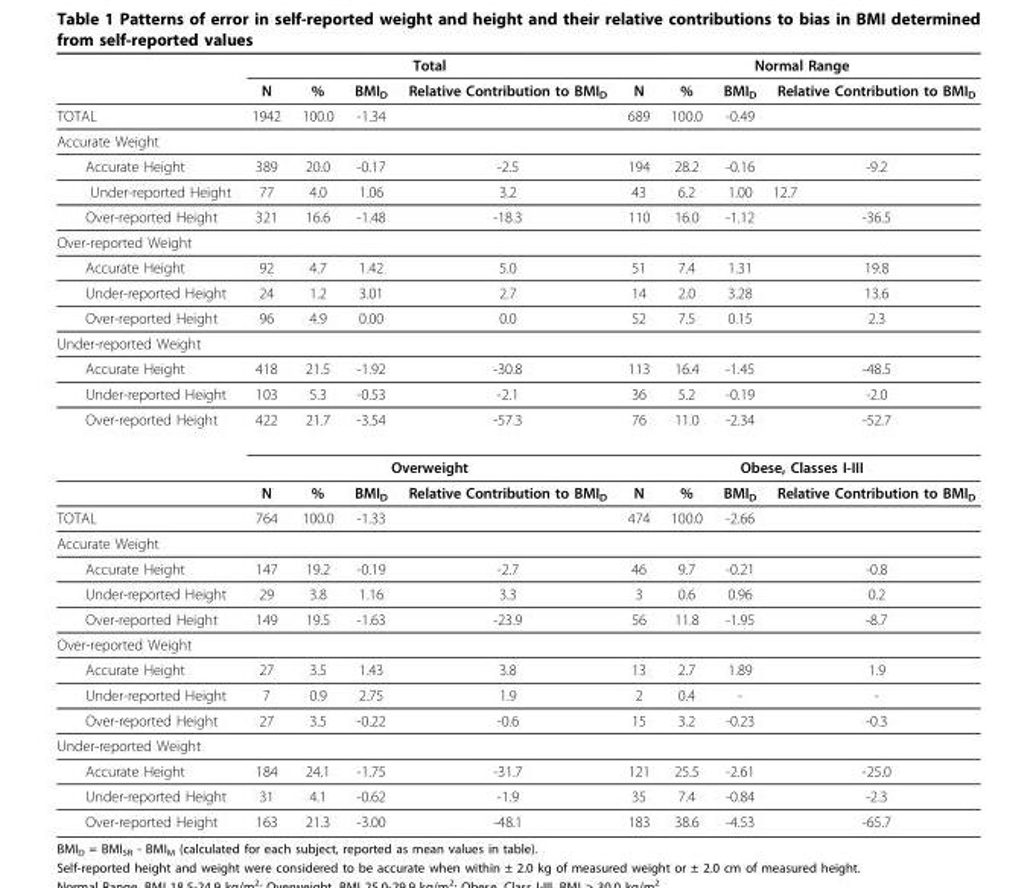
<table><thead><tr><td rowspan="2"></td><td colspan="4">Total</td><td colspan="4">Normal Range</td></tr><tr><td>N</td><td>%</td><td>BMI<sub>D</sub></td><td>Relative Contribution to BMI<sub>D</sub></td><td>N</td><td>%</td><td>BMI<sub>D</sub></td><td>Relative Contribution to BMI<sub>D</sub></td></tr></thead><tbody><tr><td>TOTAL</td><td>1942</td><td>100.0</td><td>-1.34</td><td></td><td>689</td><td>100.0</td><td>-0.49</td><td></td></tr><tr><td colspan="9">Accurate Weight</td></tr><tr><td>Accurate Height</td><td>389</td><td>20.0</td><td>-0.17</td><td>-2.5</td><td>194</td><td>28.2</td><td>-0.16</td><td>-9.2</td></tr><tr><td>Under-reported Height</td><td>77</td><td>4.0</td><td>1.06</td><td>3.2</td><td>43</td><td>6.2</td><td>1.00</td><td>12.7</td></tr><tr><td>Over-reported Height</td><td>321</td><td>16.6</td><td>-1.48</td><td>-18.3</td><td>110</td><td>16.0</td><td>-1.12</td><td>-36.5</td></tr><tr><td colspan="9">Over-reported Weight</td></tr><tr><td>Accurate Height</td><td>92</td><td>4.7</td><td>1.42</td><td>5.0</td><td>51</td><td>7.4</td><td>1.31</td><td>19.8</td></tr><tr><td>Under-reported Height</td><td>24</td><td>1.2</td><td>3.01</td><td>2.7</td><td>14</td><td>2.0</td><td>3.28</td><td>13.6</td></tr><tr><td>Over-reported Height</td><td>96</td><td>4.9</td><td>0.00</td><td>0.0</td><td>52</td><td>7.5</td><td>0.15</td><td>2.3</td></tr><tr><td colspan="9">Under-reported Weight</td></tr><tr><td>Accurate Height</td><td>418</td><td>21.5</td><td>-1.92</td><td>-30.8</td><td>113</td><td>16.4</td><td>-1.45</td><td>-48.5</td></tr><tr><td>Under-reported Height</td><td>103</td><td>5.3</td><td>-0.53</td><td>-2.1</td><td>36</td><td>5.2</td><td>-0.19</td><td>-2.0</td></tr><tr><td rowspan="3">Over-reported Height</td><td>422</td><td>21.7</td><td>-3.54</td><td>-57.3</td><td>76</td><td>11.0</td><td>-2.34</td><td>-52.7</td></tr><tr><td colspan="4">Overweight</td><td colspan="4">Obese, Classes I-III</td></tr><tr><td>N</td><td>%</td><td>BMI<sub>D</sub></td><td>Relative Contribution to BMI<sub>D</sub></td><td>N</td><td>%</td><td>BMI<sub>D</sub></td><td>Relative Contribution to BMI<sub>D</sub></td></tr><tr><td>TOTAL</td><td>764</td><td>100.0</td><td>-1.33</td><td></td><td>474</td><td>100.0</td><td>-2.66</td><td></td></tr><tr><td colspan="9">Accurate Weight</td></tr><tr><td>Accurate Height</td><td>147</td><td>19.2</td><td>-0.19</td><td>-2.7</td><td>46</td><td>9.7</td><td>-0.21</td><td>-0.8</td></tr><tr><td>Under-reported Height</td><td>29</td><td>3.8</td><td>1.16</td><td>3.3</td><td>3</td><td>0.6</td><td>0.96</td><td>0.2</td></tr><tr><td>Over-reported Height</td><td>149</td><td>19.5</td><td>-1.63</td><td>-23.9</td><td>56</td><td>11.8</td><td>-1.95</td><td>-8.7</td></tr><tr><td colspan="9">Over-reported Weight</td></tr><tr><td>Accurate Height</td><td>27</td><td>3.5</td><td>1.43</td><td>3.8</td><td>13</td><td>2.7</td><td>1.89</td><td>1.9</td></tr><tr><td>Under-reported Height</td><td>7</td><td>0.9</td><td>2.75</td><td>1.9</td><td>2</td><td>0.4</td><td>-</td><td>-</td></tr><tr><td>Over-reported Height</td><td>27</td><td>3.5</td><td>-0.22</td><td>-0.6</td><td>15</td><td>3.2</td><td>-0.23</td><td>-0.3</td></tr><tr><td colspan="9">Under-reported Weight</td></tr><tr><td>Accurate Height</td><td>184</td><td>24.1</td><td>-1.75</td><td>-31.7</td><td>121</td><td>25.5</td><td>-2.61</td><td>-25.0</td></tr><tr><td>Under-reported Height</td><td>31</td><td>4.1</td><td>-0.62</td><td>-1.9</td><td>35</td><td>7.4</td><td>-0.84</td><td>-2.3</td></tr><tr><td>Over-reported Height</td><td>163</td><td>21.3</td><td>-3.00</td><td>-48.1</td><td>183</td><td>38.6</td><td>-4.53</td><td>-65.7</td></tr></tbody></table>